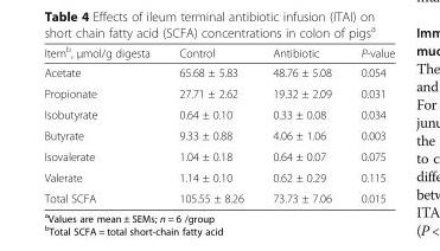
<table><thead><tr><td>Item<sup>b</sup>, μmol/g digesta</td><td>Control</td><td>Antibiotic</td><td>P-value</td></tr></thead><tbody><tr><td>Acetate</td><td>65.68 ± 5.83</td><td>48.76 ± 5.08</td><td>0.054</td></tr><tr><td>Propionate</td><td>27.71 ± 2.62</td><td>19.32 ± 2.09</td><td>0.031</td></tr><tr><td>Isobutyrate</td><td>0.64 ± 0.10</td><td>0.33 ± 0.08</td><td>0.034</td></tr><tr><td>Butyrate</td><td>9.33 ± 0.88</td><td>4.06 ± 1.06</td><td>0.003</td></tr><tr><td>Isovalerate</td><td>1.04 ± 0.18</td><td>0.64 ± 0.07</td><td>0.075</td></tr><tr><td>Valerate</td><td>1.14 ± 0.10</td><td>0.62 ± 0.29</td><td>0.115</td></tr><tr><td>Total SCFA</td><td>105.55 ± 8.26</td><td>73.73 ± 7.06</td><td>0.015</td></tr></tbody></table>